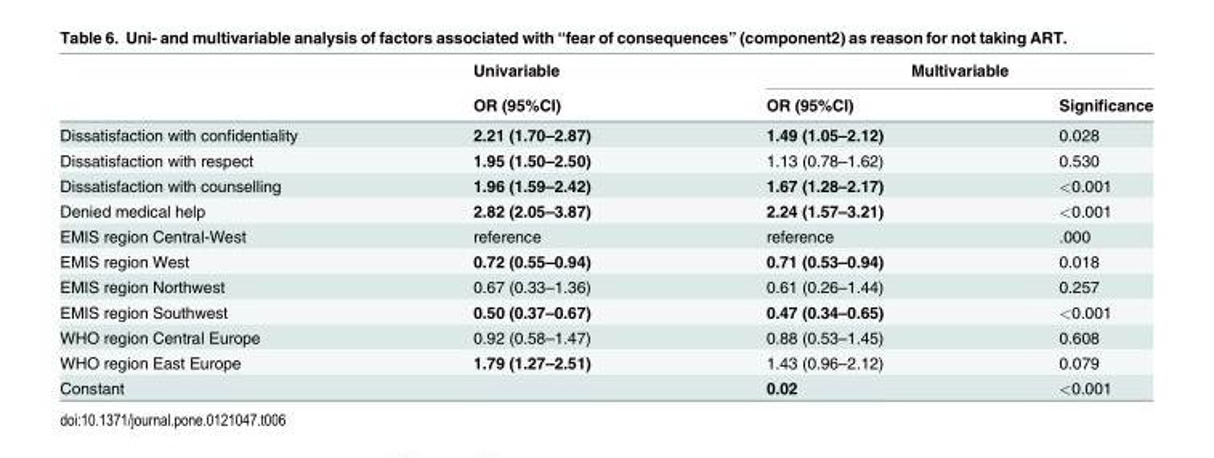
<table><thead><tr><td rowspan="2"></td><td rowspan="2">Univariable OR (95%CI)</td><td colspan="2">Multivariable</td></tr><tr><td>OR (95%CI)</td><td>Significance</td></tr></thead><tbody><tr><td>Dissatisfaction with confidentiality</td><td>2.21 (1.70–2.87)</td><td>1.49 (1.05–2.12)</td><td>0.028</td></tr><tr><td>Dissatisfaction with respect</td><td>1.95 (1.50–2.50)</td><td>1.13 (0.78–1.62)</td><td>0.530</td></tr><tr><td>Dissatisfaction with counselling</td><td>1.96 (1.59–2.42)</td><td>1.67 (1.28–2.17)</td><td>&lt;0.001</td></tr><tr><td>Denied medical help</td><td>2.82 (2.05–3.87)</td><td>2.24 (1.57–3.21)</td><td>&lt;0.001</td></tr><tr><td>EMIS region Central-West</td><td>reference</td><td>reference</td><td>.000</td></tr><tr><td>EMIS region West</td><td>0.72 (0.55–0.94)</td><td>0.71 (0.53–0.94)</td><td>0.018</td></tr><tr><td>EMIS region Northwest</td><td>0.67 (0.33–1.36)</td><td>0.61 (0.26–1.44)</td><td>0.257</td></tr><tr><td>EMIS region Southwest</td><td>0.50 (0.37–0.67)</td><td>0.47 (0.34–0.65)</td><td>&lt;0.001</td></tr><tr><td>WHO region Central Europe</td><td>0.92 (0.58–1.47)</td><td>0.88 (0.53–1.45)</td><td>0.608</td></tr><tr><td>WHO region East Europe</td><td>1.79 (1.27–2.51)</td><td>1.43 (0.96–2.12)</td><td>0.079</td></tr><tr><td>Constant</td><td></td><td>0.02</td><td>&lt;0.001</td></tr></tbody></table>